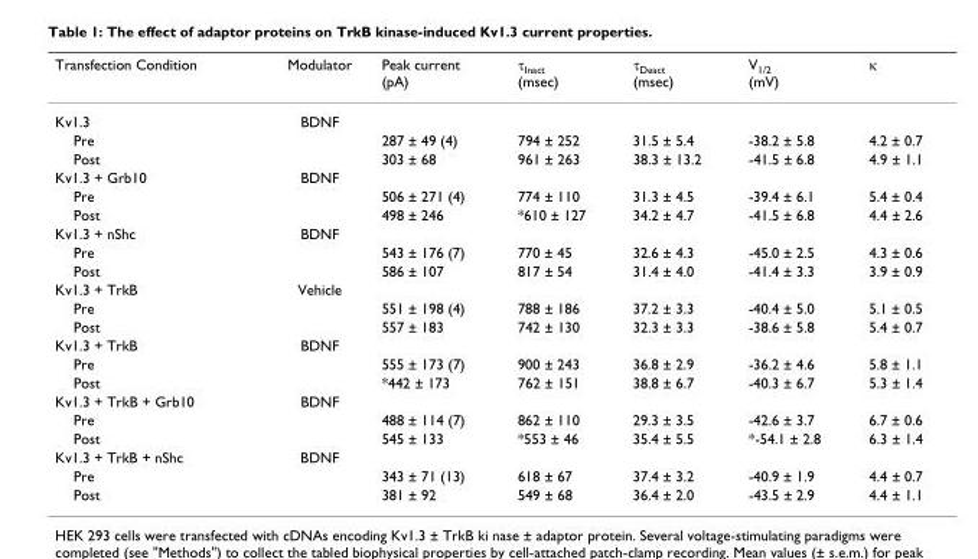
<table><thead><tr><td>Transfection Condition</td><td>Modulator</td><td>Peak current (pA)</td><td>τ<sub>Inact</sub> (msec)</td><td>τ<sub>Deact</sub> (msec)</td><td>V<sub>1/2</sub> (mV)</td><td>κ</td></tr></thead><tbody><tr><td>Kv1.3</td><td>BDNF</td><td></td><td></td><td></td><td></td><td></td></tr><tr><td>Pre</td><td></td><td>287 ± 49 (4)</td><td>794 ± 252</td><td>31.5 ± 5.4</td><td>-38.2 ± 5.8</td><td>4.2 ± 0.7</td></tr><tr><td>Post</td><td></td><td>303 ± 68</td><td>961 ± 263</td><td>38.3 ± 13.2</td><td>-41.5 ± 6.8</td><td>4.9 ± 1.1</td></tr><tr><td>Kv1.3 + Grb10</td><td>BDNF</td><td></td><td></td><td></td><td></td><td></td></tr><tr><td>Pre</td><td></td><td>506 ± 271 (4)</td><td>774 ± 110</td><td>31.3 ± 4.5</td><td>-39.4 ± 6.1</td><td>5.4 ± 0.4</td></tr><tr><td>Post</td><td></td><td>498 ± 246</td><td>*610 ± 127</td><td>34.2 ± 4.7</td><td>-41.5 ± 6.8</td><td>4.4 ± 2.6</td></tr><tr><td>Kv1.3 + nShc</td><td>BDNF</td><td></td><td></td><td></td><td></td><td></td></tr><tr><td>Pre</td><td></td><td>543 ± 176 (7)</td><td>770 ± 45</td><td>32.6 ± 4.3</td><td>-45.0 ± 2.5</td><td>4.3 ± 0.6</td></tr><tr><td>Post</td><td></td><td>586 ± 107</td><td>817 ± 54</td><td>31.4 ± 4.0</td><td>-41.4 ± 3.3</td><td>3.9 ± 0.9</td></tr><tr><td>Kv1.3 + TrkB</td><td>Vehicle</td><td></td><td></td><td></td><td></td><td></td></tr><tr><td>Pre</td><td></td><td>551 ± 198 (4)</td><td>788 ± 186</td><td>37.2 ± 3.3</td><td>-40.4 ± 5.0</td><td>5.1 ± 0.5</td></tr><tr><td>Post</td><td></td><td>557 ± 183</td><td>742 ± 130</td><td>32.3 ± 3.3</td><td>-38.6 ± 5.8</td><td>5.4 ± 0.7</td></tr><tr><td>Kv1.3 + TrkB</td><td>BDNF</td><td></td><td></td><td></td><td></td><td></td></tr><tr><td>Pre</td><td></td><td>555 ± 173 (7)</td><td>900 ± 243</td><td>36.8 ± 2.9</td><td>-36.2 ± 4.6</td><td>5.8 ± 1.1</td></tr><tr><td>Post</td><td></td><td>*442 ± 173</td><td>762 ± 151</td><td>38.8 ± 6.7</td><td>-40.3 ± 6.7</td><td>5.3 ± 1.4</td></tr><tr><td>Kv1.3 + TrkB + Grb10</td><td>BDNF</td><td></td><td></td><td></td><td></td><td></td></tr><tr><td>Pre</td><td></td><td>488 ± 114 (7)</td><td>862 ± 110</td><td>29.3 ± 3.5</td><td>-42.6 ± 3.7</td><td>6.7 ± 0.6</td></tr><tr><td>Post</td><td></td><td>545 ± 133</td><td>*553 ± 46</td><td>35.4 ± 5.5</td><td>*-54.1 ± 2.8</td><td>6.3 ± 1.4</td></tr><tr><td>Kv1.3 + TrkB + nShc</td><td>BDNF</td><td></td><td></td><td></td><td></td><td></td></tr><tr><td>Pre</td><td></td><td>343 ± 71 (13)</td><td>618 ± 67</td><td>37.4 ± 3.2</td><td>-40.9 ± 1.9</td><td>4.4 ± 0.7</td></tr><tr><td>Post</td><td></td><td>381 ± 92</td><td>549 ± 68</td><td>36.4 ± 2.0</td><td>-43.5 ± 2.9</td><td>4.4 ± 1.1</td></tr></tbody></table>